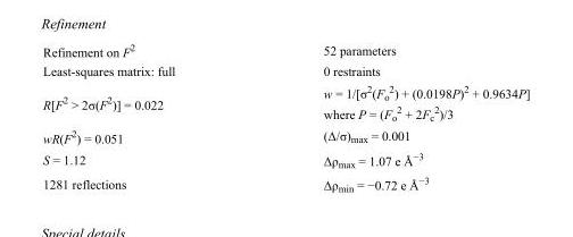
<table><tbody><tr><td>Refinement on F<sup>2</sup></td><td>52 parameters</td></tr><tr><td>Least-squares matrix: full</td><td>0 restraints</td></tr><tr><td>R[F<sup>2</sup> &gt; 2σ(F<sup>2</sup>)] = 0.022</td><td>w = 1/[σ<sup>2</sup>(F<sub>o</sub> <sup>2</sup>) + (0.0198P)<sup>2</sup> + 0.9634P] where P = (F<sub>o</sub> <sup>2</sup> + 2F<sub>c</sub> <sup>2</sup>)/3</td></tr><tr><td>wR(F<sup>2</sup>) = 0.051</td><td>(Δ/σ)<sub>max</sub> = 0.001</td></tr><tr><td>S = 1.12</td><td>Δρ<sub>max</sub> = 1.07 e Å<sup>−3</sup></td></tr><tr><td>1281 reflections</td><td>Δρ<sub>min</sub> = −0.72 e Å<sup>−3</sup></td></tr></tbody></table>